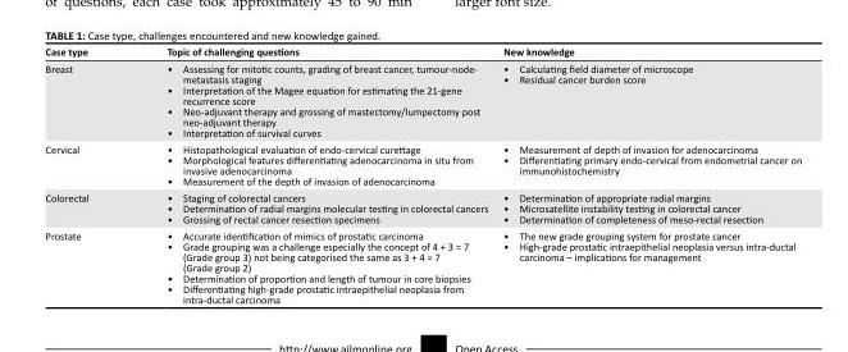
<table><thead><tr><td>Case type</td><td>Topic of challenging questions</td><td>New knowledge</td></tr></thead><tbody><tr><td>Breast</td><td>• Assessing for mitotic counts, grading of breast cancer, tumour-node- metastasis staging • Interpretation of the Magee equation for estimating the 21-gene recurrence score • Neo-adjuvant therapy and grossing of mastectomy/lumpectomy post neo-adjuvant therapy • Interpretation of survival curves</td><td>• Calculating field diameter of microscope • Residual cancer burden score</td></tr><tr><td>Cervical</td><td>• Histopathological evaluation of endo-cervical curettage • Morphological features differentiating adenocarcinoma in situ from invasive adenocarcinoma • Measurement of the depth of invasion of adenocarcinoma</td><td>• Measurement of depth of invasion for adenocarcinoma • Differentiating primary endo-cervical from endometrial cancer on immunohistochemistry</td></tr><tr><td>Colorectal</td><td>• Staging of colorectal cancers • Determination of radial margins molecular testing in colorectal cancers • Grossing of rectal cancer resection specimens</td><td>• Determination of appropriate radial margins • Microsatellite instability testing in colorectal cancer • Determination of completeness of meso-rectal resection</td></tr><tr><td>Prostate</td><td>• Accurate identification of mimics of prostatic carcinoma • Grade grouping was a challenge especially the concept of 4 + 3 = 7 (Grade group 3) not being categorised the same as 3 + 4 = 7 (Grade group 2) • Determination of proportion and length of tumour in core biopsies • Differentiating high-grade prostatic intraepithelial neoplasia from intra-ductal carcinoma</td><td>• The new grade grouping system for prostate cancer • High-grade prostatic intraepithelial neoplasia versus intra-ductal carcinoma – implications for management</td></tr></tbody></table>